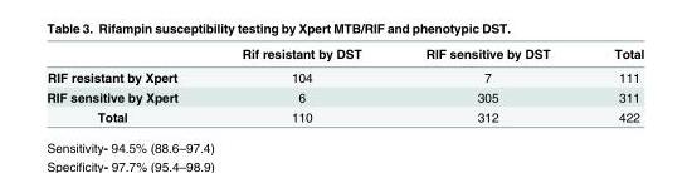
<table><thead><tr><td></td><td>Rif resistant by DST</td><td>RIF sensitive by DST</td><td>Total</td></tr></thead><tbody><tr><td>RIF resistant by Xpert</td><td>104</td><td>7</td><td>111</td></tr><tr><td>RIF sensitive by Xpert</td><td>6</td><td>305</td><td>311</td></tr><tr><td>Total</td><td>110</td><td>312</td><td>422</td></tr></tbody></table>